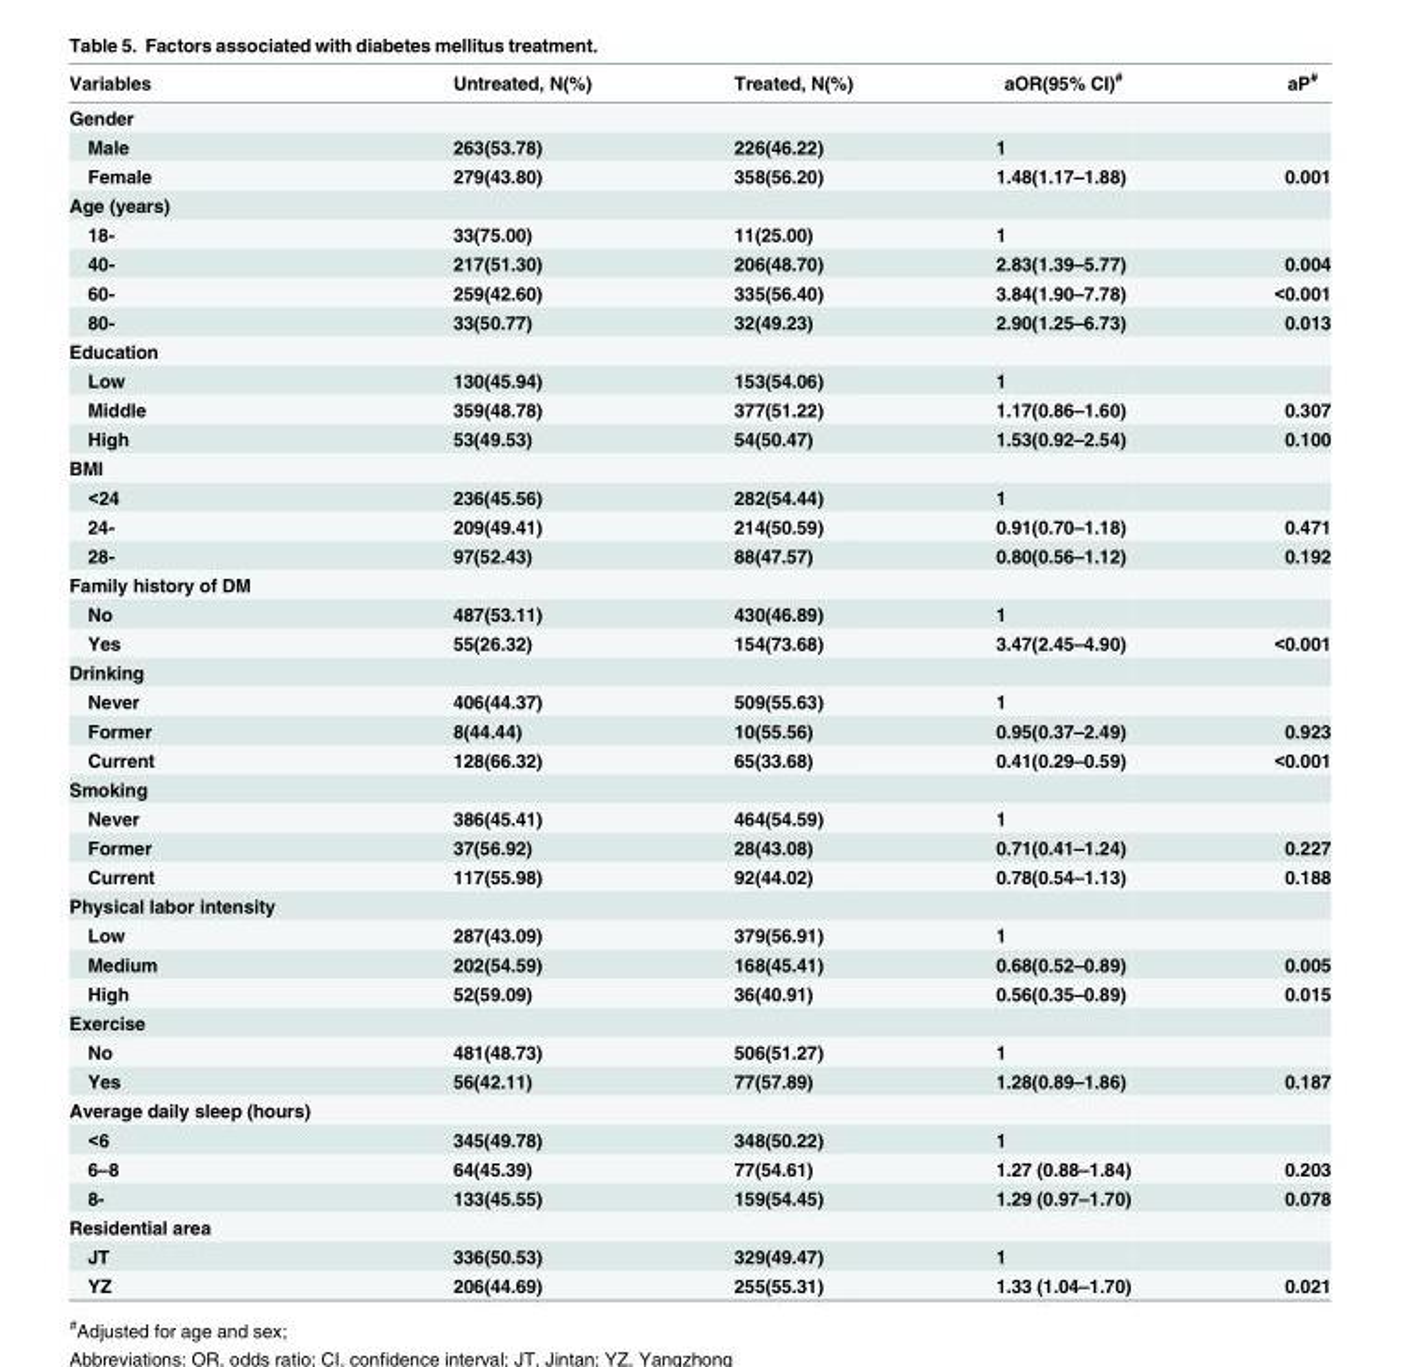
<table><thead><tr><td>Variables</td><td>Untreated, N(%)</td><td>Treated, N(%)</td><td>aOR(95% CI)<sup>#</sup></td><td>aP<sup>#</sup></td></tr></thead><tbody><tr><td colspan="5">Gender</td></tr><tr><td>Male</td><td>263(53.78)</td><td>226(46.22)</td><td>1</td><td></td></tr><tr><td>Female</td><td>279(43.80)</td><td>358(56.20)</td><td>1.48(1.17–1.88)</td><td>0.001</td></tr><tr><td colspan="5">Age (years)</td></tr><tr><td>18-</td><td>33(75.00)</td><td>11(25.00)</td><td>1</td><td></td></tr><tr><td>40-</td><td>217(51.30)</td><td>206(48.70)</td><td>2.83(1.39–5.77)</td><td>0.004</td></tr><tr><td>60-</td><td>259(42.60)</td><td>335(56.40)</td><td>3.84(1.90–7.78)</td><td>&lt;0.001</td></tr><tr><td>80-</td><td>33(50.77)</td><td>32(49.23)</td><td>2.90(1.25–6.73)</td><td>0.013</td></tr><tr><td colspan="5">Education</td></tr><tr><td>Low</td><td>130(45.94)</td><td>153(54.06)</td><td>1</td><td></td></tr><tr><td>Middle</td><td>359(48.78)</td><td>377(51.22)</td><td>1.17(0.86–1.60)</td><td>0.307</td></tr><tr><td>High</td><td>53(49.53)</td><td>54(50.47)</td><td>1.53(0.92–2.54)</td><td>0.100</td></tr><tr><td colspan="5">BMI</td></tr><tr><td>&lt;24</td><td>236(45.56)</td><td>282(54.44)</td><td>1</td><td></td></tr><tr><td>24-</td><td>209(49.41)</td><td>214(50.59)</td><td>0.91(0.70–1.18)</td><td>0.471</td></tr><tr><td>28-</td><td>97(52.43)</td><td>88(47.57)</td><td>0.80(0.56–1.12)</td><td>0.192</td></tr><tr><td colspan="5">Family history of DM</td></tr><tr><td>No</td><td>487(53.11)</td><td>430(46.89)</td><td>1</td><td></td></tr><tr><td>Yes</td><td>55(26.32)</td><td>154(73.68)</td><td>3.47(2.45–4.90)</td><td>&lt;0.001</td></tr><tr><td colspan="5">Drinking</td></tr><tr><td>Never</td><td>406(44.37)</td><td>509(55.63)</td><td>1</td><td></td></tr><tr><td>Former</td><td>8(44.44)</td><td>10(55.56)</td><td>0.95(0.37–2.49)</td><td>0.923</td></tr><tr><td>Current</td><td>128(66.32)</td><td>65(33.68)</td><td>0.41(0.29–0.59)</td><td>&lt;0.001</td></tr><tr><td colspan="5">Smoking</td></tr><tr><td>Never</td><td>386(45.41)</td><td>464(54.59)</td><td>1</td><td></td></tr><tr><td>Former</td><td>37(56.92)</td><td>28(43.08)</td><td>0.71(0.41–1.24)</td><td>0.227</td></tr><tr><td>Current</td><td>117(55.98)</td><td>92(44.02)</td><td>0.78(0.54–1.13)</td><td>0.188</td></tr><tr><td colspan="5">Physical labor intensity</td></tr><tr><td>Low</td><td>287(43.09)</td><td>379(56.91)</td><td>1</td><td></td></tr><tr><td>Medium</td><td>202(54.59)</td><td>168(45.41)</td><td>0.68(0.52–0.89)</td><td>0.005</td></tr><tr><td>High</td><td>52(59.09)</td><td>36(40.91)</td><td>0.56(0.35–0.89)</td><td>0.015</td></tr><tr><td colspan="5">Exercise</td></tr><tr><td>No</td><td>481(48.73)</td><td>506(51.27)</td><td>1</td><td></td></tr><tr><td>Yes</td><td>56(42.11)</td><td>77(57.89)</td><td>1.28(0.89–1.86)</td><td>0.187</td></tr><tr><td colspan="5">Average daily sleep (hours)</td></tr><tr><td>&lt;6</td><td>345(49.78)</td><td>348(50.22)</td><td>1</td><td></td></tr><tr><td>6–8</td><td>64(45.39)</td><td>77(54.61)</td><td>1.27 (0.88–1.84)</td><td>0.203</td></tr><tr><td>8-</td><td>133(45.55)</td><td>159(54.45)</td><td>1.29 (0.97–1.70)</td><td>0.078</td></tr><tr><td colspan="5">Residential area</td></tr><tr><td>JT</td><td>336(50.53)</td><td>329(49.47)</td><td>1</td><td></td></tr><tr><td>YZ</td><td>206(44.69)</td><td>255(55.31)</td><td>1.33 (1.04–1.70)</td><td>0.021</td></tr></tbody></table>